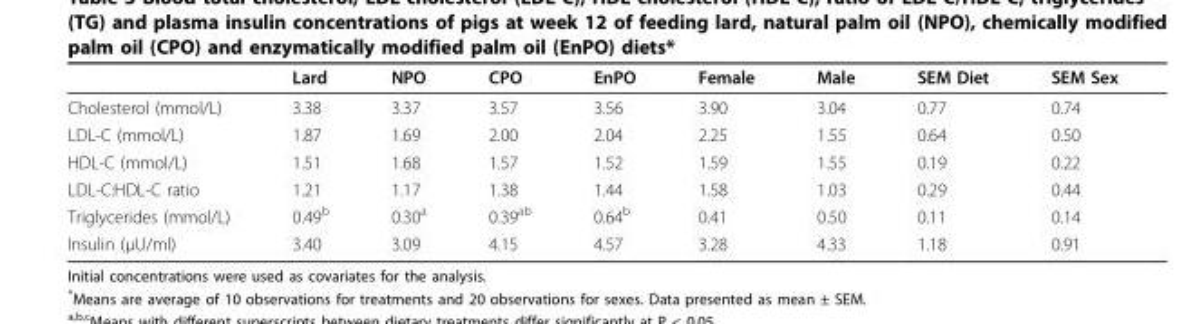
<table><thead><tr><td></td><td>Lard</td><td>NPO</td><td>CPO</td><td>EnPO</td><td>Female</td><td>Male</td><td>SEM Diet</td><td>SEM Sex</td></tr></thead><tbody><tr><td>Cholesterol (mmol/L)</td><td>3.38</td><td>3.37</td><td>3.57</td><td>3.56</td><td>3.90</td><td>3.04</td><td>0.77</td><td>0.74</td></tr><tr><td>LDL-C (mmol/L)</td><td>1.87</td><td>1.69</td><td>2.00</td><td>2.04</td><td>2.25</td><td>1.55</td><td>0.64</td><td>0.50</td></tr><tr><td>HDL-C (mmol/L)</td><td>1.51</td><td>1.68</td><td>1.57</td><td>1.52</td><td>1.59</td><td>1.55</td><td>0.19</td><td>0.22</td></tr><tr><td>LDL-C:HDL-C ratio</td><td>1.21</td><td>1.17</td><td>1.38</td><td>1.44</td><td>1.58</td><td>1.03</td><td>0.29</td><td>0.44</td></tr><tr><td>Triglycerides (mmol/L)</td><td>0.49<sup>b</sup></td><td>0.30<sup>a</sup></td><td>0.39<sup>ab</sup></td><td>0.64<sup>b</sup></td><td>0.41</td><td>0.50</td><td>0.11</td><td>0.14</td></tr><tr><td>Insulin (μU/ml)</td><td>3.40</td><td>3.09</td><td>4.15</td><td>4.57</td><td>3.28</td><td>4.33</td><td>1.18</td><td>0.91</td></tr></tbody></table>